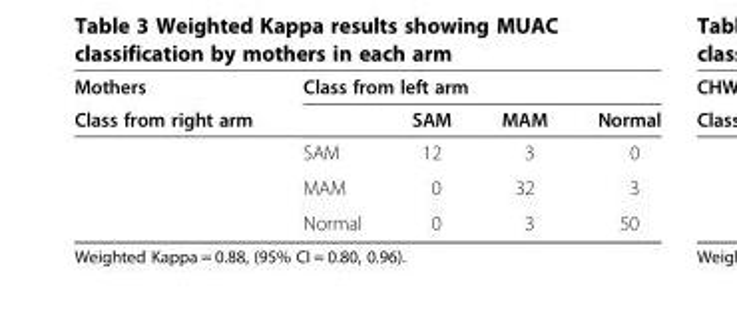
<table><thead><tr><td rowspan="2">Mothers Class from right arm</td><td colspan="4">Class from left arm</td></tr><tr><td></td><td>SAM</td><td>MAM</td><td>Normal</td></tr></thead><tbody><tr><td></td><td>SAM</td><td>12</td><td>3</td><td>0</td></tr><tr><td></td><td>MAM</td><td>0</td><td>32</td><td>3</td></tr><tr><td></td><td>Normal</td><td>0</td><td>3</td><td>50</td></tr></tbody></table>